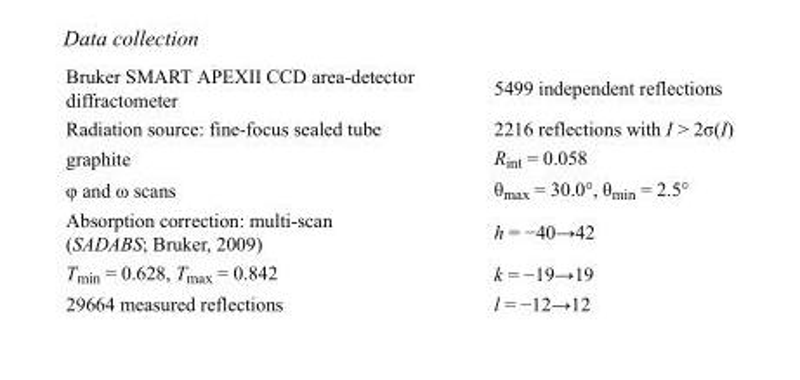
<table><tbody><tr><td>Bruker SMART APEXII CCD area-detector diffractometer</td><td>5499 independent reflections</td></tr><tr><td>Radiation source: fine-focus sealed tube</td><td>2216 reflections with I &gt; 2σ(I)</td></tr><tr><td>graphite</td><td>R<sub>int</sub> = 0.058</td></tr><tr><td>φ and ω scans</td><td>θ<sub>max</sub> = 30.0°, θ<sub>min</sub> = 2.5°</td></tr><tr><td>Absorption correction: multi-scan (SADABS; Bruker, 2009)</td><td>h = −40→42</td></tr><tr><td>T<sub>min</sub> = 0.628, T<sub>max</sub> = 0.842</td><td>k = −19→19</td></tr><tr><td>29664 measured reflections</td><td>l = −12→12</td></tr></tbody></table>